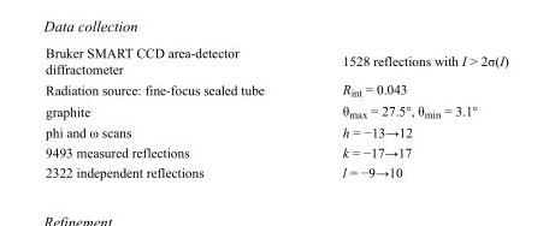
<table><tbody><tr><td>Bruker SMART CCD area-detector diffractometer</td><td>1528 reflections with I &gt; 2σ(I)</td></tr><tr><td>Radiation source: fine-focus sealed tube</td><td>R<sub>int</sub> = 0.043</td></tr><tr><td>graphite</td><td>θ<sub>max</sub> = 27.5°, θ<sub>min</sub> = 3.1°</td></tr><tr><td>phi and ω scans</td><td>h = −13→12</td></tr><tr><td>9493 measured reflections</td><td>k = −17→17</td></tr><tr><td>2322 independent reflections</td><td>l = −9→10</td></tr></tbody></table>